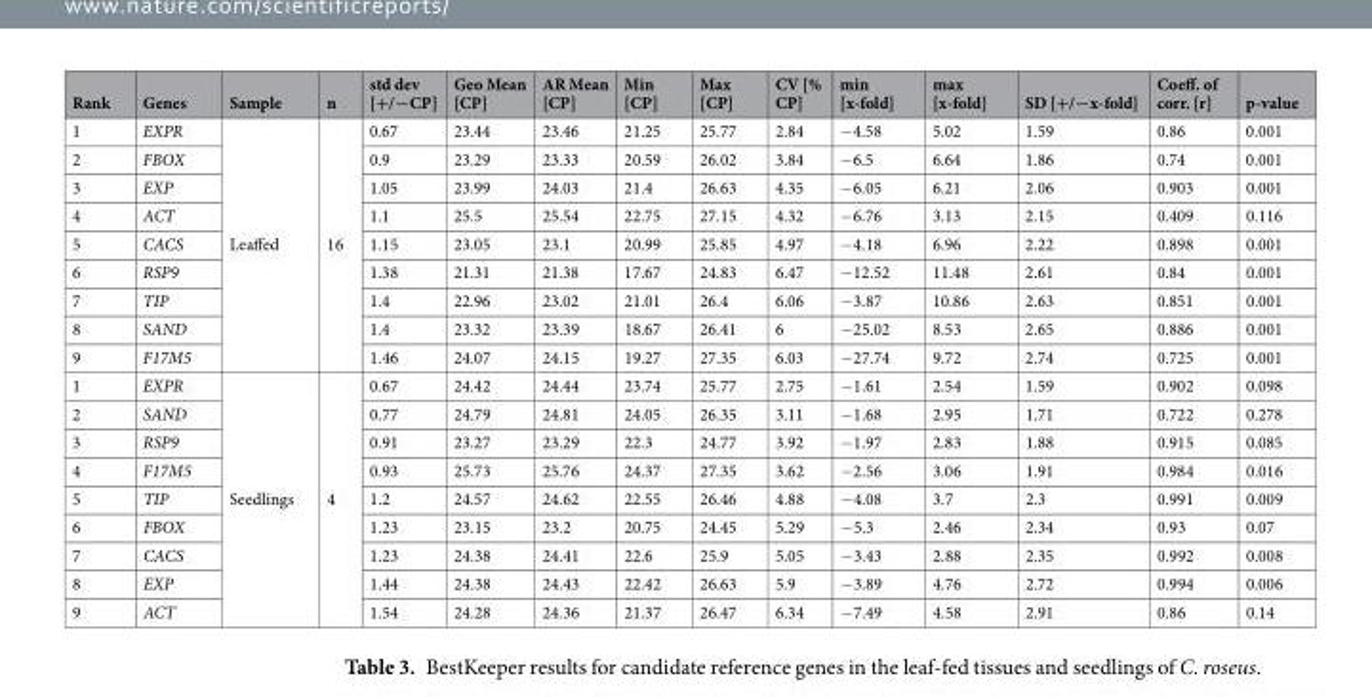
<table><thead><tr><td>Rank</td><td>Genes</td><td>Sample</td><td>n</td><td>std dev [+/−CP]</td><td>Geo Mean [CP]</td><td>AR Mean [CP]</td><td>Min [CP]</td><td>Max [CP]</td><td>CV [% CP]</td><td>min [x-fold]</td><td>max [x-fold]</td><td>SD [+/−x-fold]</td><td>Coeff. of corr. [r]</td><td>p-value</td></tr></thead><tbody><tr><td>1</td><td>EXPR</td><td rowspan="9">Leaffed</td><td rowspan="9">16</td><td>0.67</td><td>23.44</td><td>23.46</td><td>21.25</td><td>25.77</td><td>2.84</td><td>−4.58</td><td>5.02</td><td>1.59</td><td>0.86</td><td>0.001</td></tr><tr><td>2</td><td>FBOX</td><td>0.9</td><td>23.29</td><td>23.33</td><td>20.59</td><td>26.02</td><td>3.84</td><td>−6.5</td><td>6.64</td><td>1.86</td><td>0.74</td><td>0.001</td></tr><tr><td>3</td><td>EXP</td><td>1.05</td><td>23.99</td><td>24.03</td><td>21.4</td><td>26.63</td><td>4.35</td><td>−6.05</td><td>6.21</td><td>2.06</td><td>0.903</td><td>0.001</td></tr><tr><td>4</td><td>ACT</td><td>1.1</td><td>25.5</td><td>25.54</td><td>22.75</td><td>27.15</td><td>4.32</td><td>−6.76</td><td>3.13</td><td>2.15</td><td>0.409</td><td>0.116</td></tr><tr><td>5</td><td>CACS</td><td>1.15</td><td>23.05</td><td>23.1</td><td>20.99</td><td>25.85</td><td>4.97</td><td>−4.18</td><td>6.96</td><td>2.22</td><td>0.898</td><td>0.001</td></tr><tr><td>6</td><td>RSP9</td><td>1.38</td><td>21.31</td><td>21.38</td><td>17.67</td><td>24.83</td><td>6.47</td><td>−12.52</td><td>11.48</td><td>2.61</td><td>0.84</td><td>0.001</td></tr><tr><td>7</td><td>TIP</td><td>1.4</td><td>22.96</td><td>23.02</td><td>21.01</td><td>26.4</td><td>6.06</td><td>−3.87</td><td>10.86</td><td>2.63</td><td>0.851</td><td>0.001</td></tr><tr><td>8</td><td>SAND</td><td>1.4</td><td>23.32</td><td>23.39</td><td>18.67</td><td>26.41</td><td>6</td><td>−25.02</td><td>8.53</td><td>2.65</td><td>0.886</td><td>0.001</td></tr><tr><td>9</td><td>F17M5</td><td>1.46</td><td>24.07</td><td>24.15</td><td>19.27</td><td>27.35</td><td>6.03</td><td>−27.74</td><td>9.72</td><td>2.74</td><td>0.725</td><td>0.001</td></tr><tr><td>1</td><td>EXPR</td><td rowspan="9">Seedlings</td><td rowspan="9">4</td><td>0.67</td><td>24.42</td><td>24.44</td><td>23.74</td><td>25.77</td><td>2.75</td><td>−1.61</td><td>2.54</td><td>1.59</td><td>0.902</td><td>0.098</td></tr><tr><td>2</td><td>SAND</td><td>0.77</td><td>24.79</td><td>24.81</td><td>24.05</td><td>26.35</td><td>3.11</td><td>−1.68</td><td>2.95</td><td>1.71</td><td>0.722</td><td>0.278</td></tr><tr><td>3</td><td>RSP9</td><td>0.91</td><td>23.27</td><td>23.29</td><td>22.3</td><td>24.77</td><td>3.92</td><td>−1.97</td><td>2.83</td><td>1.88</td><td>0.915</td><td>0.085</td></tr><tr><td>4</td><td>F17M5</td><td>0.93</td><td>25.73</td><td>25.76</td><td>24.37</td><td>27.35</td><td>3.62</td><td>−2.56</td><td>3.06</td><td>1.91</td><td>0.984</td><td>0.016</td></tr><tr><td>5</td><td>TIP</td><td>1.2</td><td>24.57</td><td>24.62</td><td>22.55</td><td>26.46</td><td>4.88</td><td>−4.08</td><td>3.7</td><td>2.3</td><td>0.991</td><td>0.009</td></tr><tr><td>6</td><td>FBOX</td><td>1.23</td><td>23.15</td><td>23.2</td><td>20.75</td><td>24.45</td><td>5.29</td><td>−5.3</td><td>2.46</td><td>2.34</td><td>0.93</td><td>0.07</td></tr><tr><td>7</td><td>CACS</td><td>1.23</td><td>24.38</td><td>24.41</td><td>22.6</td><td>25.9</td><td>5.05</td><td>−3.43</td><td>2.88</td><td>2.35</td><td>0.992</td><td>0.008</td></tr><tr><td>8</td><td>EXP</td><td>1.44</td><td>24.38</td><td>24.43</td><td>22.42</td><td>26.63</td><td>5.9</td><td>−3.89</td><td>4.76</td><td>2.72</td><td>0.994</td><td>0.006</td></tr><tr><td>9</td><td>ACT</td><td>1.54</td><td>24.28</td><td>24.36</td><td>21.37</td><td>26.47</td><td>6.34</td><td>−7.49</td><td>4.58</td><td>2.91</td><td>0.86</td><td>0.14</td></tr></tbody></table>